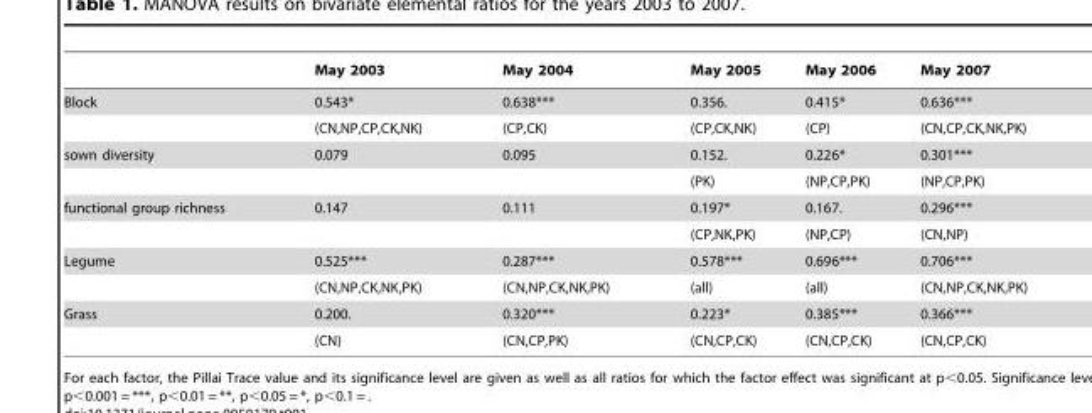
<table><thead><tr><td></td><td>May 2003</td><td>May 2004</td><td>May 2005</td><td>May 2006</td><td>May 2007</td></tr></thead><tbody><tr><td rowspan="2">Block</td><td>0.543*</td><td>0.638***</td><td>0.356.</td><td>0.415*</td><td>0.636***</td></tr><tr><td>(CN,NP,CP,CK,NK)</td><td>(CP,CK)</td><td>(CP,CK,NK)</td><td>(CP)</td><td>(CN,CP,CK,NK,PK)</td></tr><tr><td rowspan="2">sown diversity</td><td>0.079</td><td>0.095</td><td>0.152.</td><td>0.226*</td><td>0.301***</td></tr><tr><td></td><td></td><td>(PK)</td><td>(NP,CP,PK)</td><td>(NP,CP,PK)</td></tr><tr><td rowspan="2">functional group richness</td><td>0.147</td><td>0.111</td><td>0.197*</td><td>0.167.</td><td>0.296***</td></tr><tr><td></td><td></td><td>(CP,NK,PK)</td><td>(NP,CP)</td><td>(CN,NP)</td></tr><tr><td rowspan="2">Legume</td><td>0.525***</td><td>0.287***</td><td>0.578***</td><td>0.696***</td><td>0.706***</td></tr><tr><td>(CN,NP,CK,NK,PK)</td><td>(CN,NP,CK,NK,PK)</td><td>(all)</td><td>(all)</td><td>(CN,NP,CK,NK,PK)</td></tr><tr><td rowspan="2">Grass</td><td>0.200.</td><td>0.320***</td><td>0.223*</td><td>0.385***</td><td>0.366***</td></tr><tr><td>(CN)</td><td>(CN,CP,PK)</td><td>(CN,CP,CK)</td><td>(CN,CP,CK)</td><td>(CN,CP,CK)</td></tr></tbody></table>